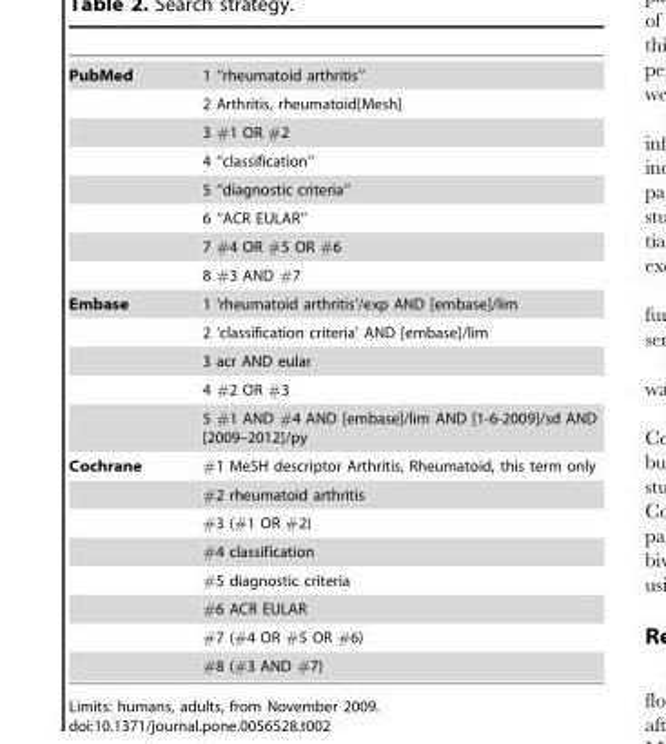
<table><tbody><tr><td rowspan="8">PubMed</td><td>1 ‘‘rheumatoid arthritis’’</td></tr><tr><td>2 Arthritis, rheumatoid[Mesh]</td></tr><tr><td>3 #1 OR #2</td></tr><tr><td>4 ‘‘classification’’</td></tr><tr><td>5 ‘‘diagnostic criteria’’</td></tr><tr><td>6 ‘‘ACR EULAR’’</td></tr><tr><td>7 #4 OR #5 OR #6</td></tr><tr><td>8 #3 AND #7</td></tr><tr><td rowspan="5">Embase</td><td>1 ‘rheumatoid arthritis’/exp AND [embase]/lim</td></tr><tr><td>2 ‘classification criteria’ AND [embase]/lim</td></tr><tr><td>3 acr AND eular</td></tr><tr><td>4 #2 OR #3</td></tr><tr><td>5 #1 AND #4 AND [embase]/lim AND [1-6-2009]/sd AND [2009–2012]/py</td></tr><tr><td rowspan="8">Cochrane</td><td>#1 MeSH descriptor Arthritis, Rheumatoid, this term only</td></tr><tr><td>#2 rheumatoid arthritis</td></tr><tr><td>#3 (#1 OR #2)</td></tr><tr><td>#4 classification</td></tr><tr><td>#5 diagnostic criteria</td></tr><tr><td>#6 ACR EULAR</td></tr><tr><td>#7 (#4 OR #5 OR #6)</td></tr><tr><td>#8 (#3 AND #7)</td></tr></tbody></table>